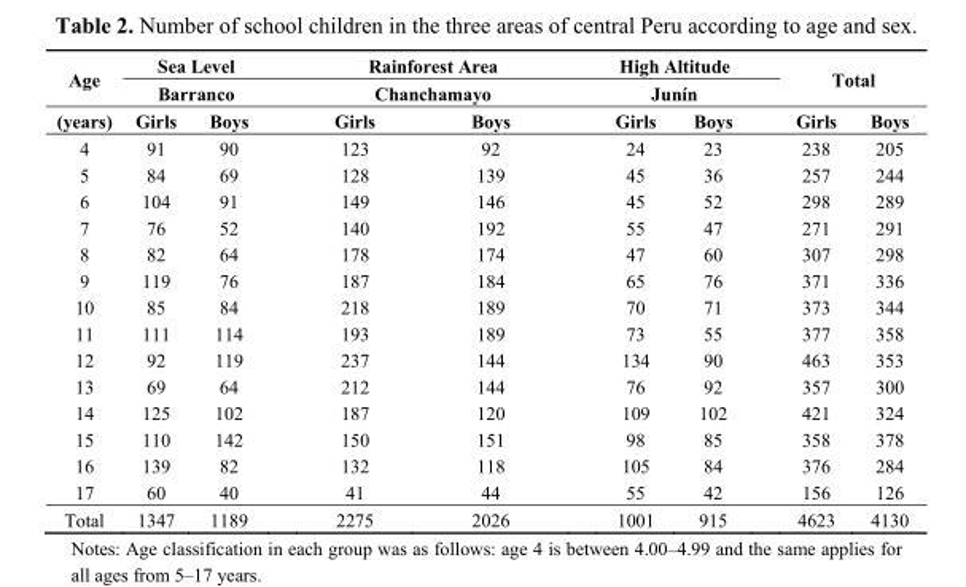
<table><thead><tr><td rowspan="3">Age (years)</td><td rowspan="2" colspan="2">Sea Level Barranco</td><td rowspan="2" colspan="2">Rainforest Area Chanchamayo</td><td rowspan="2" colspan="2">High Altitude Junín</td><td rowspan="2" colspan="2">Total</td></tr><tr></tr><tr><td>Girls</td><td>Boys</td><td>Girls</td><td>Boys</td><td>Girls</td><td>Boys</td><td>Girls</td><td>Boys</td></tr></thead><tbody><tr><td>4</td><td>91</td><td>90</td><td>123</td><td>92</td><td>24</td><td>23</td><td>238</td><td>205</td></tr><tr><td>5</td><td>84</td><td>69</td><td>128</td><td>139</td><td>45</td><td>36</td><td>257</td><td>244</td></tr><tr><td>6</td><td>104</td><td>91</td><td>149</td><td>146</td><td>45</td><td>52</td><td>298</td><td>289</td></tr><tr><td>7</td><td>76</td><td>52</td><td>140</td><td>192</td><td>55</td><td>47</td><td>271</td><td>291</td></tr><tr><td>8</td><td>82</td><td>64</td><td>178</td><td>174</td><td>47</td><td>60</td><td>307</td><td>298</td></tr><tr><td>9</td><td>119</td><td>76</td><td>187</td><td>184</td><td>65</td><td>76</td><td>371</td><td>336</td></tr><tr><td>10</td><td>85</td><td>84</td><td>218</td><td>189</td><td>70</td><td>71</td><td>373</td><td>344</td></tr><tr><td>11</td><td>111</td><td>114</td><td>193</td><td>189</td><td>73</td><td>55</td><td>377</td><td>358</td></tr><tr><td>12</td><td>92</td><td>119</td><td>237</td><td>144</td><td>134</td><td>90</td><td>463</td><td>353</td></tr><tr><td>13</td><td>69</td><td>64</td><td>212</td><td>144</td><td>76</td><td>92</td><td>357</td><td>300</td></tr><tr><td>14</td><td>125</td><td>102</td><td>187</td><td>120</td><td>109</td><td>102</td><td>421</td><td>324</td></tr><tr><td>15</td><td>110</td><td>142</td><td>150</td><td>151</td><td>98</td><td>85</td><td>358</td><td>378</td></tr><tr><td>16</td><td>139</td><td>82</td><td>132</td><td>118</td><td>105</td><td>84</td><td>376</td><td>284</td></tr><tr><td>17</td><td>60</td><td>40</td><td>41</td><td>44</td><td>55</td><td>42</td><td>156</td><td>126</td></tr><tr><td>Total</td><td>1347</td><td>1189</td><td>2275</td><td>2026</td><td>1001</td><td>915</td><td>4623</td><td>4130</td></tr></tbody></table>